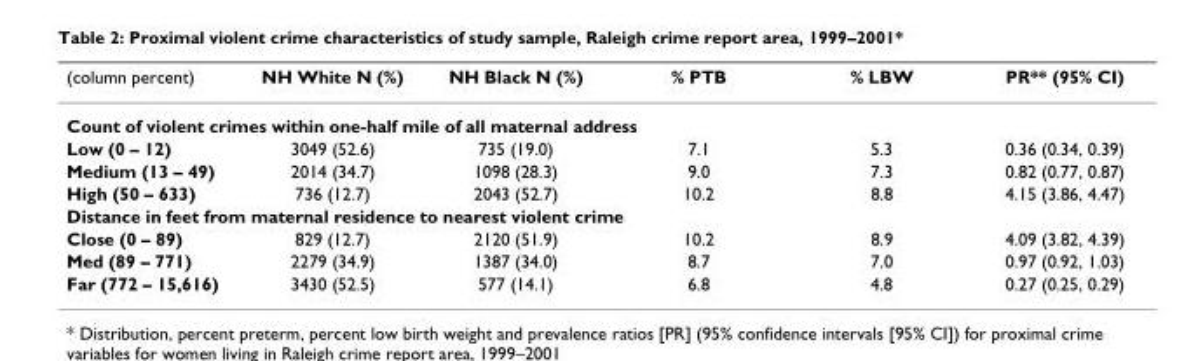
<table><thead><tr><td>(column percent)</td><td>NH White N (%)</td><td>NH Black N (%)</td><td>% PTB</td><td>% LBW</td><td>PR** (95% CI)</td></tr></thead><tbody><tr><td colspan="6">Count of violent crimes within one-half mile of all maternal address</td></tr><tr><td>Low (0 – 12)</td><td>3049 (52.6)</td><td>735 (19.0)</td><td>7.1</td><td>5.3</td><td>0.36 (0.34, 0.39)</td></tr><tr><td>Medium (13 – 49)</td><td>2014 (34.7)</td><td>1098 (28.3)</td><td>9.0</td><td>7.3</td><td>0.82 (0.77, 0.87)</td></tr><tr><td>High (50 – 633)</td><td>736 (12.7)</td><td>2043 (52.7)</td><td>10.2</td><td>8.8</td><td>4.15 (3.86, 4.47)</td></tr><tr><td colspan="6">Distance in feet from maternal residence to nearest violent crime</td></tr><tr><td>Close (0 – 89)</td><td>829 (12.7)</td><td>2120 (51.9)</td><td>10.2</td><td>8.9</td><td>4.09 (3.82, 4.39)</td></tr><tr><td>Med (89 – 771)</td><td>2279 (34.9)</td><td>1387 (34.0)</td><td>8.7</td><td>7.0</td><td>0.97 (0.92, 1.03)</td></tr><tr><td>Far (772 – 15,616)</td><td>3430 (52.5)</td><td>577 (14.1)</td><td>6.8</td><td>4.8</td><td>0.27 (0.25, 0.29)</td></tr></tbody></table>